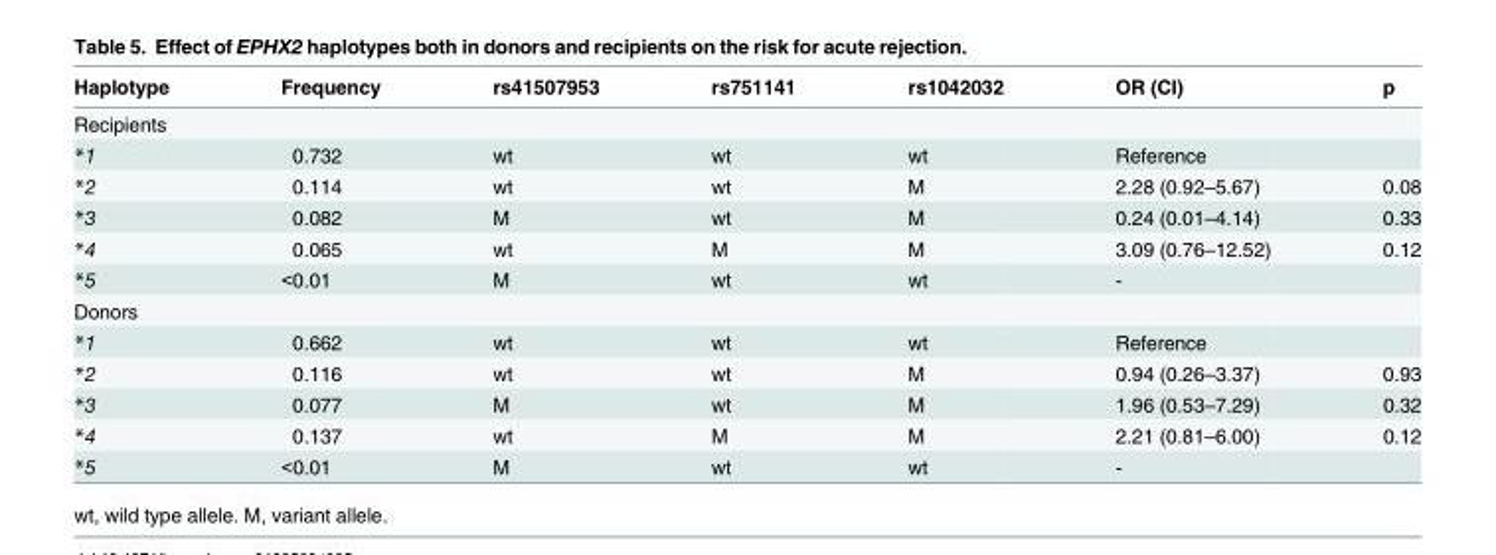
<table><thead><tr><td>Haplotype</td><td>Frequency</td><td>rs41507953</td><td>rs751141</td><td>rs1042032</td><td>OR (CI)</td><td>p</td></tr></thead><tbody><tr><td colspan="7">Recipients</td></tr><tr><td>*1</td><td>0.732</td><td>wt</td><td>wt</td><td>wt</td><td>Reference</td><td></td></tr><tr><td>*2</td><td>0.114</td><td>wt</td><td>wt</td><td>M</td><td>2.28 (0.92–5.67)</td><td>0.08</td></tr><tr><td>*3</td><td>0.082</td><td>M</td><td>wt</td><td>M</td><td>0.24 (0.01–4.14)</td><td>0.33</td></tr><tr><td>*4</td><td>0.065</td><td>wt</td><td>M</td><td>M</td><td>3.09 (0.76–12.52)</td><td>0.12</td></tr><tr><td>*5</td><td>&lt;0.01</td><td>M</td><td>wt</td><td>wt</td><td>-</td><td></td></tr><tr><td colspan="7">Donors</td></tr><tr><td>*1</td><td>0.662</td><td>wt</td><td>wt</td><td>wt</td><td>Reference</td><td></td></tr><tr><td>*2</td><td>0.116</td><td>wt</td><td>wt</td><td>M</td><td>0.94 (0.26–3.37)</td><td>0.93</td></tr><tr><td>*3</td><td>0.077</td><td>M</td><td>wt</td><td>M</td><td>1.96 (0.53–7.29)</td><td>0.32</td></tr><tr><td>*4</td><td>0.137</td><td>wt</td><td>M</td><td>M</td><td>2.21 (0.81–6.00)</td><td>0.12</td></tr><tr><td>*5</td><td>&lt;0.01</td><td>M</td><td>wt</td><td>wt</td><td>-</td><td></td></tr></tbody></table>